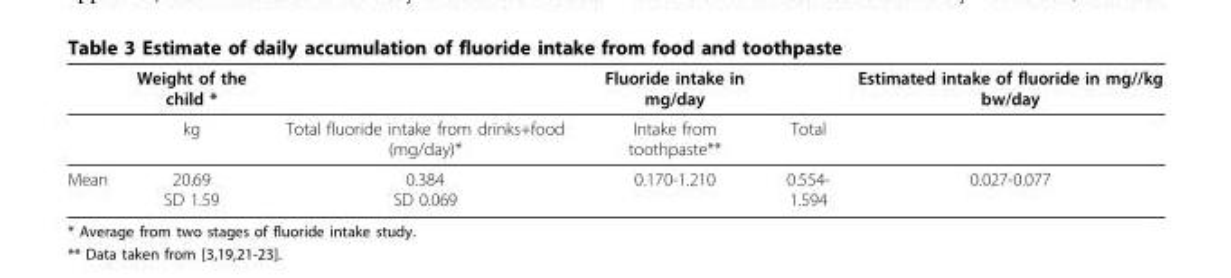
<table><thead><tr><td></td><td>Weight of the child *</td><td></td><td>Fluoride intake in mg/day</td><td></td><td>Estimated intake of fluoride in mg//kg bw/day</td></tr></thead><tbody><tr><td></td><td>kg</td><td>Total fluoride intake from drinks+food (mg/day)*</td><td>Intake from toothpaste**</td><td>Total</td><td></td></tr><tr><td>Mean</td><td>20.69 SD 1.59</td><td>0.384 SD 0.069</td><td>0.170-1.210</td><td>0.554- 1.594</td><td>0.027-0.077</td></tr></tbody></table>